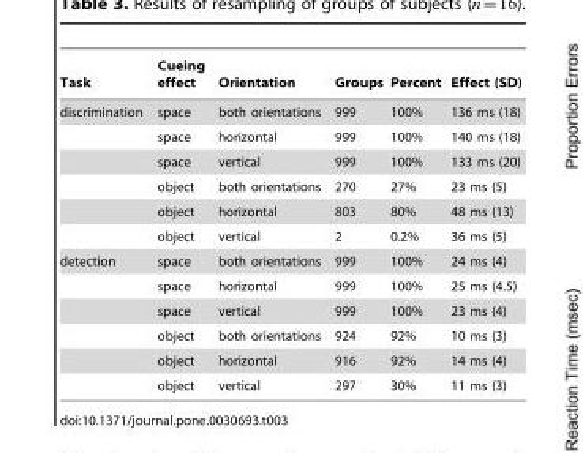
<table><thead><tr><td>Task</td><td>Cueing effect</td><td>Orientation</td><td>Groups</td><td>Percent</td><td>Effect (SD)</td></tr></thead><tbody><tr><td rowspan="6">discrimination</td><td>space</td><td>both orientations</td><td>999</td><td>100%</td><td>136 ms (18)</td></tr><tr><td>space</td><td>horizontal</td><td>999</td><td>100%</td><td>140 ms (18)</td></tr><tr><td>space</td><td>vertical</td><td>999</td><td>100%</td><td>133 ms (20)</td></tr><tr><td>object</td><td>both orientations</td><td>270</td><td>27%</td><td>23 ms (5)</td></tr><tr><td>object</td><td>horizontal</td><td>803</td><td>80%</td><td>48 ms (13)</td></tr><tr><td>object</td><td>vertical</td><td>2</td><td>0.2%</td><td>36 ms (5)</td></tr><tr><td rowspan="6">detection</td><td>space</td><td>both orientations</td><td>999</td><td>100%</td><td>24 ms (4)</td></tr><tr><td>space</td><td>horizontal</td><td>999</td><td>100%</td><td>25 ms (4.5)</td></tr><tr><td>space</td><td>vertical</td><td>999</td><td>100%</td><td>23 ms (4)</td></tr><tr><td>object</td><td>both orientations</td><td>924</td><td>92%</td><td>10 ms (3)</td></tr><tr><td>object</td><td>horizontal</td><td>916</td><td>92%</td><td>14 ms (4)</td></tr><tr><td>object</td><td>vertical</td><td>297</td><td>30%</td><td>11 ms (3)</td></tr></tbody></table>